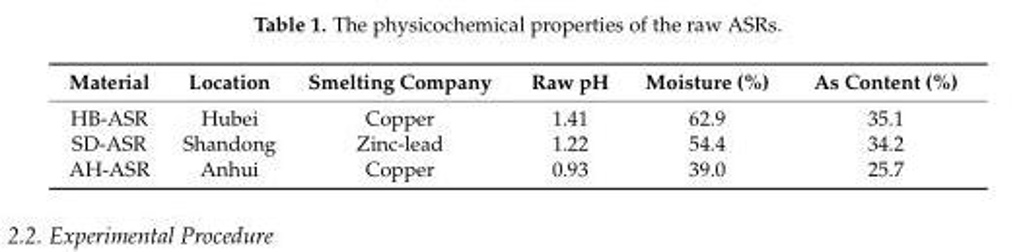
<table><thead><tr><td>Material</td><td>Location</td><td>Smelting Company</td><td>Raw pH</td><td>Moisture (%)</td><td>As Content (%)</td></tr></thead><tbody><tr><td>HB-ASR</td><td>Hubei</td><td>Copper</td><td>1.41</td><td>62.9</td><td>35.1</td></tr><tr><td>SD-ASR</td><td>Shandong</td><td>Zinc-lead</td><td>1.22</td><td>54.4</td><td>34.2</td></tr><tr><td>AH-ASR</td><td>Anhui</td><td>Copper</td><td>0.93</td><td>39.0</td><td>25.7</td></tr></tbody></table>